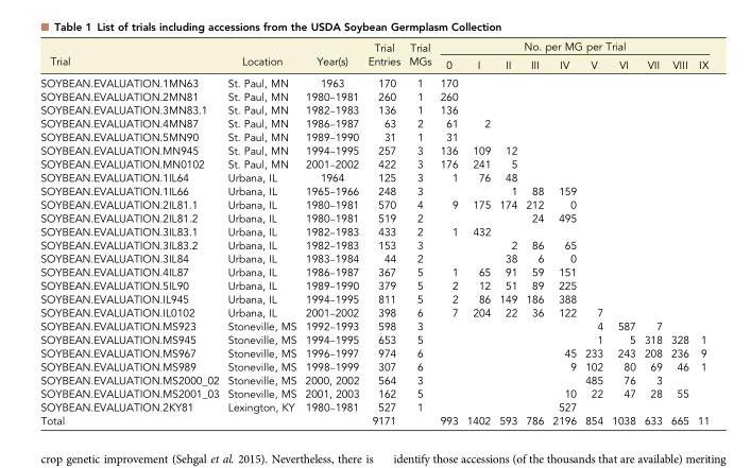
<table><thead><tr><td rowspan="2">Trial</td><td rowspan="2">Location</td><td rowspan="2">Year(s)</td><td rowspan="2">Trial Entries</td><td rowspan="2">Trial MGs</td><td colspan="10">No. per MG per Trial</td></tr><tr><td>0</td><td>I</td><td>II</td><td>III</td><td>IV</td><td>V</td><td>VI</td><td>VII</td><td>VIII</td><td>IX</td></tr></thead><tbody><tr><td>SOYBEAN.EVALUATION.1MN63</td><td>St. Paul, MN</td><td>1963</td><td>170</td><td>1</td><td>170</td><td></td><td></td><td></td><td></td><td></td><td></td><td></td><td></td><td></td></tr><tr><td>SOYBEAN.EVALUATION.2MN81</td><td>St. Paul, MN</td><td>1980–1981</td><td>260</td><td>1</td><td>260</td><td></td><td></td><td></td><td></td><td></td><td></td><td></td><td></td><td></td></tr><tr><td>SOYBEAN.EVALUATION.3MN83.1</td><td>St. Paul, MN</td><td>1982–1983</td><td>136</td><td>1</td><td>136</td><td></td><td></td><td></td><td></td><td></td><td></td><td></td><td></td><td></td></tr><tr><td>SOYBEAN.EVALUATION.4MN87</td><td>St. Paul, MN</td><td>1986–1987</td><td>63</td><td>2</td><td>61</td><td>2</td><td></td><td></td><td></td><td></td><td></td><td></td><td></td><td></td></tr><tr><td>SOYBEAN.EVALUATION.5MN90</td><td>St. Paul, MN</td><td>1989–1990</td><td>31</td><td>1</td><td>31</td><td></td><td></td><td></td><td></td><td></td><td></td><td></td><td></td><td></td></tr><tr><td>SOYBEAN.EVALUATION.MN945</td><td>St. Paul, MN</td><td>1994–1995</td><td>257</td><td>3</td><td>136</td><td>109</td><td>12</td><td></td><td></td><td></td><td></td><td></td><td></td><td></td></tr><tr><td>SOYBEAN.EVALUATION.MN0102</td><td>St. Paul, MN</td><td>2001–2002</td><td>422</td><td>3</td><td>176</td><td>241</td><td>5</td><td></td><td></td><td></td><td></td><td></td><td></td><td></td></tr><tr><td>SOYBEAN.EVALUATION.1IL64</td><td>Urbana, IL</td><td>1964</td><td>125</td><td>3</td><td>1</td><td>76</td><td>48</td><td></td><td></td><td></td><td></td><td></td><td></td><td></td></tr><tr><td>SOYBEAN.EVALUATION.1IL66</td><td>Urbana, IL</td><td>1965–1966</td><td>248</td><td>3</td><td></td><td></td><td>1</td><td>88</td><td>159</td><td></td><td></td><td></td><td></td><td></td></tr><tr><td>SOYBEAN.EVALUATION.2IL81.1</td><td>Urbana, IL</td><td>1980–1981</td><td>570</td><td>4</td><td>9</td><td>175</td><td>174</td><td>212</td><td>0</td><td></td><td></td><td></td><td></td><td></td></tr><tr><td>SOYBEAN.EVALUATION.2IL81.2</td><td>Urbana, IL</td><td>1980–1981</td><td>519</td><td>2</td><td></td><td></td><td></td><td>24</td><td>495</td><td></td><td></td><td></td><td></td><td></td></tr><tr><td>SOYBEAN.EVALUATION.3IL83.1</td><td>Urbana, IL</td><td>1982–1983</td><td>433</td><td>2</td><td>1</td><td>432</td><td></td><td></td><td></td><td></td><td></td><td></td><td></td><td></td></tr><tr><td>SOYBEAN.EVALUATION.3IL83.2</td><td>Urbana, IL</td><td>1982–1983</td><td>153</td><td>3</td><td></td><td></td><td>2</td><td>86</td><td>65</td><td></td><td></td><td></td><td></td><td></td></tr><tr><td>SOYBEAN.EVALUATION.3IL84</td><td>Urbana, IL</td><td>1983–1984</td><td>44</td><td>2</td><td></td><td></td><td>38</td><td>6</td><td>0</td><td></td><td></td><td></td><td></td><td></td></tr><tr><td>SOYBEAN.EVALUATION.4IL87</td><td>Urbana, IL</td><td>1986–1987</td><td>367</td><td>5</td><td>1</td><td>65</td><td>91</td><td>59</td><td>151</td><td></td><td></td><td></td><td></td><td></td></tr><tr><td>SOYBEAN.EVALUATION.5IL90</td><td>Urbana, IL</td><td>1989–1990</td><td>379</td><td>5</td><td>2</td><td>12</td><td>51</td><td>89</td><td>225</td><td></td><td></td><td></td><td></td><td></td></tr><tr><td>SOYBEAN.EVALUATION.IL945</td><td>Urbana, IL</td><td>1994–1995</td><td>811</td><td>5</td><td>2</td><td>86</td><td>149</td><td>186</td><td>388</td><td></td><td></td><td></td><td></td><td></td></tr><tr><td>SOYBEAN.EVALUATION.IL0102</td><td>Urbana, IL</td><td>2001–2002</td><td>398</td><td>6</td><td>7</td><td>204</td><td>22</td><td>36</td><td>122</td><td>7</td><td></td><td></td><td></td><td></td></tr><tr><td>SOYBEAN.EVALUATION.MS923</td><td>Stoneville, MS</td><td>1992–1993</td><td>598</td><td>3</td><td></td><td></td><td></td><td></td><td></td><td>4</td><td>587</td><td>7</td><td></td><td></td></tr><tr><td>SOYBEAN.EVALUATION.MS945</td><td>Stoneville, MS</td><td>1994–1995</td><td>653</td><td>5</td><td></td><td></td><td></td><td></td><td></td><td>1</td><td>5</td><td>318</td><td>328</td><td>1</td></tr><tr><td>SOYBEAN.EVALUATION.MS967</td><td>Stoneville, MS</td><td>1996–1997</td><td>974</td><td>6</td><td></td><td></td><td></td><td></td><td>45</td><td>233</td><td>243</td><td>208</td><td>236</td><td>9</td></tr><tr><td>SOYBEAN.EVALUATION.MS989</td><td>Stoneville, MS</td><td>1998–1999</td><td>307</td><td>6</td><td></td><td></td><td></td><td></td><td>9</td><td>102</td><td>80</td><td>69</td><td>46</td><td>1</td></tr><tr><td>SOYBEAN.EVALUATION.MS2000_02</td><td>Stoneville, MS</td><td>2000, 2002</td><td>564</td><td>3</td><td></td><td></td><td></td><td></td><td></td><td>485</td><td>76</td><td>3</td><td></td><td></td></tr><tr><td>SOYBEAN.EVALUATION.MS2001_03</td><td>Stoneville, MS</td><td>2001, 2003</td><td>162</td><td>5</td><td></td><td></td><td></td><td></td><td>10</td><td>22</td><td>47</td><td>28</td><td>55</td><td></td></tr><tr><td>SOYBEAN.EVALUATION.2KY81</td><td>Lexington, KY</td><td>1980–1981</td><td>527</td><td>1</td><td></td><td></td><td></td><td></td><td>527</td><td></td><td></td><td></td><td></td><td></td></tr><tr><td>Total</td><td></td><td></td><td>9171</td><td></td><td>993</td><td>1402</td><td>593</td><td>786</td><td>2196</td><td>854</td><td>1038</td><td>633</td><td>665</td><td>11</td></tr></tbody></table>